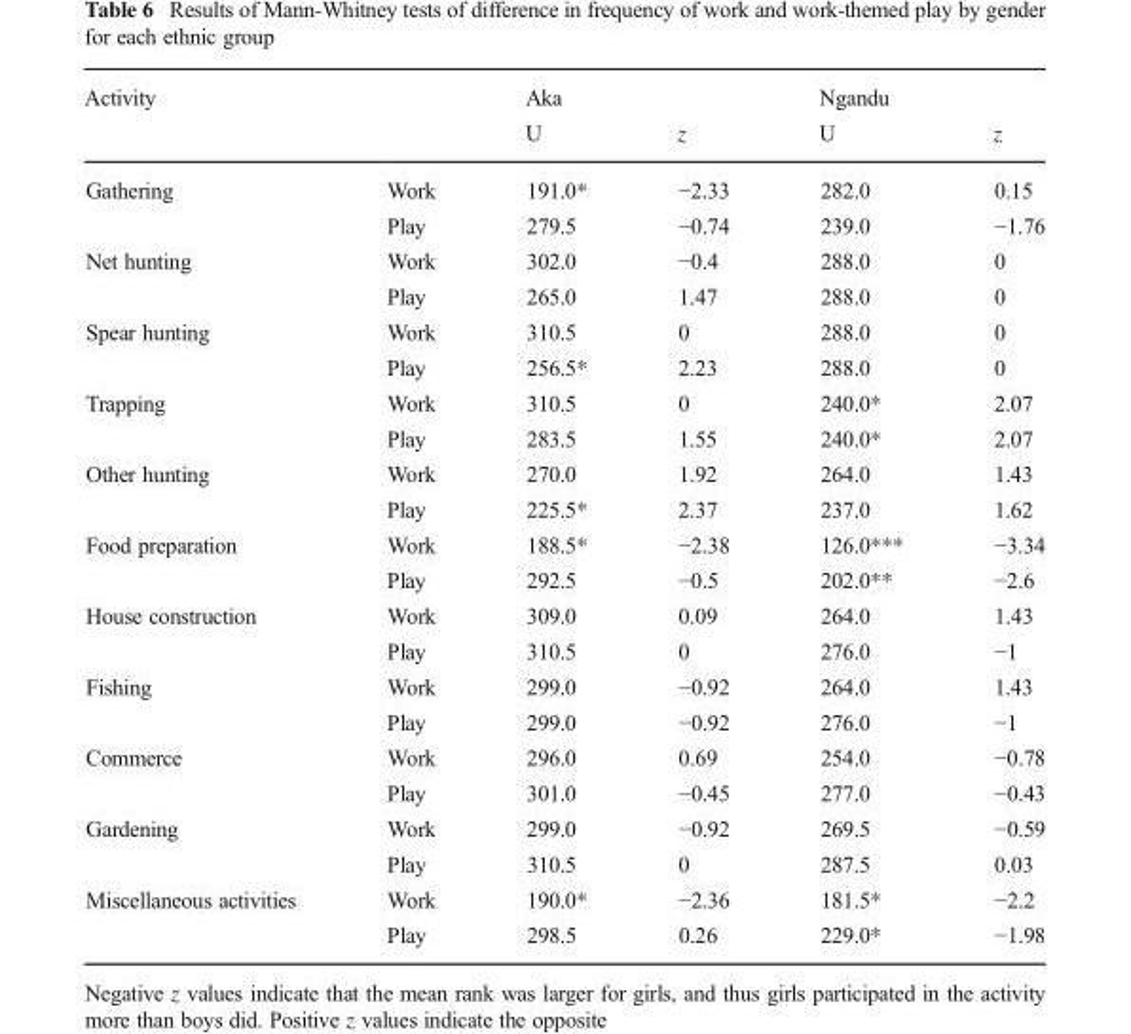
<table><thead><tr><td rowspan="2">Activity</td><td rowspan="2"></td><td colspan="2">Aka</td><td colspan="2">Ngandu</td></tr><tr><td>U</td><td>z</td><td>U</td><td>z</td></tr></thead><tbody><tr><td rowspan="2">Gathering</td><td>Work</td><td>191.0*</td><td>−2.33</td><td>282.0</td><td>0.15</td></tr><tr><td>Play</td><td>279.5</td><td>−0.74</td><td>239.0</td><td>−1.76</td></tr><tr><td rowspan="2">Net hunting</td><td>Work</td><td>302.0</td><td>−0.4</td><td>288.0</td><td>0</td></tr><tr><td>Play</td><td>265.0</td><td>1.47</td><td>288.0</td><td>0</td></tr><tr><td rowspan="2">Spear hunting</td><td>Work</td><td>310.5</td><td>0</td><td>288.0</td><td>0</td></tr><tr><td>Play</td><td>256.5*</td><td>2.23</td><td>288.0</td><td>0</td></tr><tr><td rowspan="2">Trapping</td><td>Work</td><td>310.5</td><td>0</td><td>240.0*</td><td>2.07</td></tr><tr><td>Play</td><td>283.5</td><td>1.55</td><td>240.0*</td><td>2.07</td></tr><tr><td rowspan="2">Other hunting</td><td>Work</td><td>270.0</td><td>1.92</td><td>264.0</td><td>1.43</td></tr><tr><td>Play</td><td>225.5*</td><td>2.37</td><td>237.0</td><td>1.62</td></tr><tr><td rowspan="2">Food preparation</td><td>Work</td><td>188.5*</td><td>−2.38</td><td>126.0***</td><td>−3.34</td></tr><tr><td>Play</td><td>292.5</td><td>−0.5</td><td>202.0**</td><td>−2.6</td></tr><tr><td rowspan="2">House construction</td><td>Work</td><td>309.0</td><td>0.09</td><td>264.0</td><td>1.43</td></tr><tr><td>Play</td><td>310.5</td><td>0</td><td>276.0</td><td>−1</td></tr><tr><td rowspan="2">Fishing</td><td>Work</td><td>299.0</td><td>−0.92</td><td>264.0</td><td>1.43</td></tr><tr><td>Play</td><td>299.0</td><td>−0.92</td><td>276.0</td><td>−1</td></tr><tr><td rowspan="2">Commerce</td><td>Work</td><td>296.0</td><td>0.69</td><td>254.0</td><td>−0.78</td></tr><tr><td>Play</td><td>301.0</td><td>−0.45</td><td>277.0</td><td>−0.43</td></tr><tr><td rowspan="2">Gardening</td><td>Work</td><td>299.0</td><td>−0.92</td><td>269.5</td><td>−0.59</td></tr><tr><td>Play</td><td>310.5</td><td>0</td><td>287.5</td><td>0.03</td></tr><tr><td rowspan="2">Miscellaneous activities</td><td>Work</td><td>190.0*</td><td>−2.36</td><td>181.5*</td><td>−2.2</td></tr><tr><td>Play</td><td>298.5</td><td>0.26</td><td>229.0*</td><td>−1.98</td></tr></tbody></table>